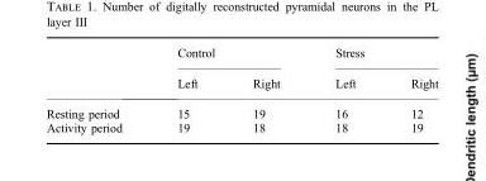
<table><thead><tr><td rowspan="2"></td><td colspan="2">Control</td><td colspan="2">Stress</td></tr><tr><td>Left</td><td>Right</td><td>Left</td><td>Right</td></tr></thead><tbody><tr><td>Resting period</td><td>15</td><td>19</td><td>16</td><td>12</td></tr><tr><td>Activity period</td><td>19</td><td>18</td><td>18</td><td>19</td></tr></tbody></table>